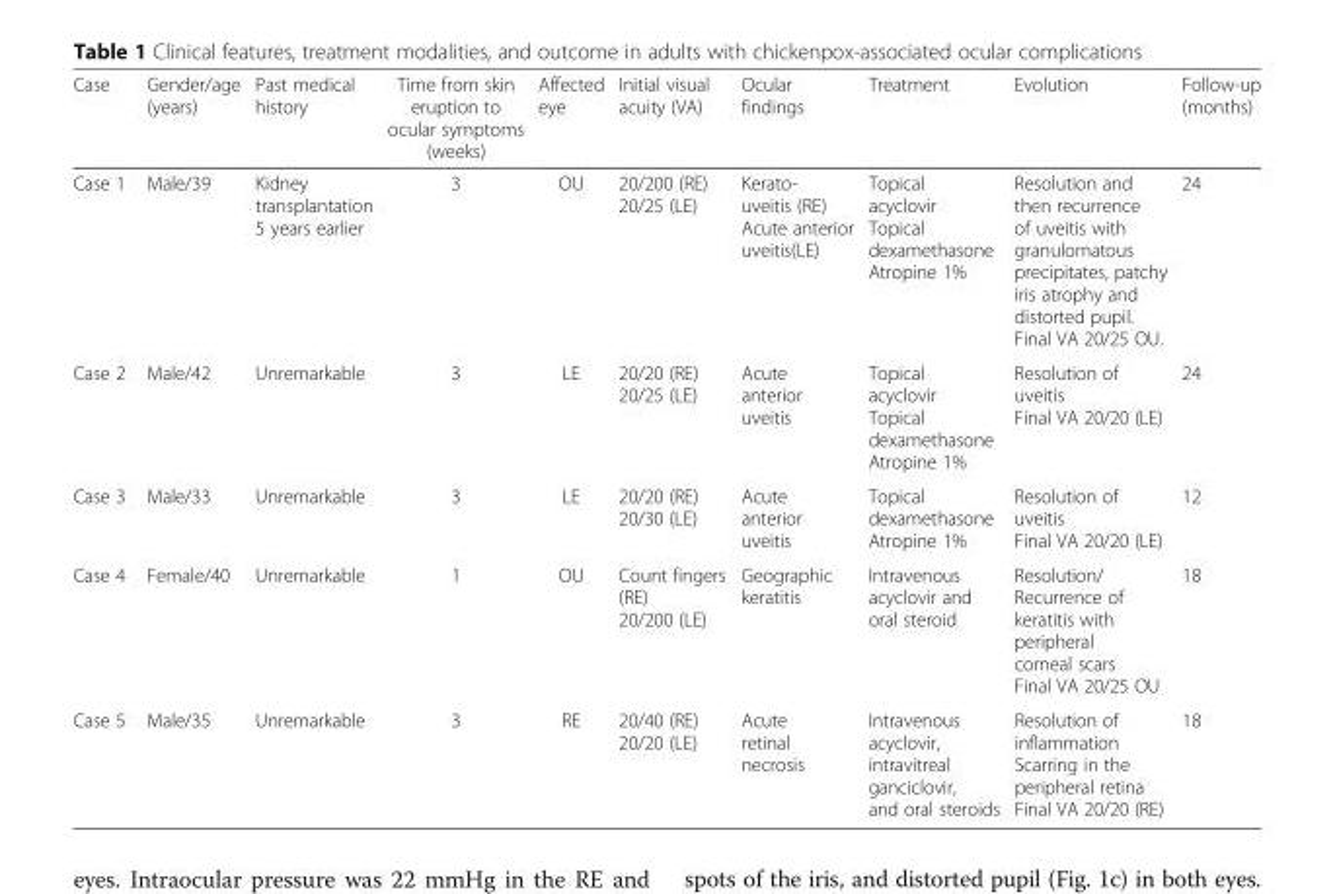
<table><thead><tr><td>Case</td><td>Gender/age (years)</td><td>Past medical history</td><td>Time from skin eruption to ocular symptoms (weeks)</td><td>Affected eye</td><td>Initial visual acuity (VA)</td><td>Ocular findings</td><td>Treatment</td><td>Evolution</td><td>Follow-up (months)</td></tr></thead><tbody><tr><td>Case 1</td><td>Male/39</td><td>Kidney transplantation 5 years earlier</td><td>3</td><td>OU</td><td>20/200 (RE) 20/25 (LE)</td><td>Kerato- uveitis (RE) Acute anterior uveitis(LE)</td><td>Topical acyclovir Topical dexamethasone Atropine 1%</td><td>Resolution and then recurrence of uveitis with granulomatous precipitates, patchy iris atrophy and distorted pupil. Final VA 20/25 OU.</td><td>24</td></tr><tr><td>Case 2</td><td>Male/42</td><td>Unremarkable</td><td>3</td><td>LE</td><td>20/20 (RE) 20/25 (LE)</td><td>Acute anterior uveitis</td><td>Topical acyclovir Topical dexamethasone Atropine 1%</td><td>Resolution of uveitis Final VA 20/20 (LE)</td><td>24</td></tr><tr><td>Case 3</td><td>Male/33</td><td>Unremarkable</td><td>3</td><td>LE</td><td>20/20 (RE) 20/30 (LE)</td><td>Acute anterior uveitis</td><td>Topical dexamethasone Atropine 1%</td><td>Resolution of uveitis Final VA 20/20 (LE)</td><td>12</td></tr><tr><td>Case 4</td><td>Female/40</td><td>Unremarkable</td><td>1</td><td>OU</td><td>Count fingers (RE) 20/200 (LE)</td><td>Geographic keratitis</td><td>Intravenous acyclovir and oral steroid</td><td>Resolution/ Recurrence of keratitis with peripheral corneal scars Final VA 20/25 OU</td><td>18</td></tr><tr><td>Case 5</td><td>Male/35</td><td>Unremarkable</td><td>3</td><td>RE</td><td>20/40 (RE) 20/20 (LE)</td><td>Acute retinal necrosis</td><td>Intravenous acyclovir, intravitreal ganciclovir, and oral steroids</td><td>Resolution of inflammation Scarring in the peripheral retina Final VA 20/20 (RE)</td><td>18</td></tr></tbody></table>